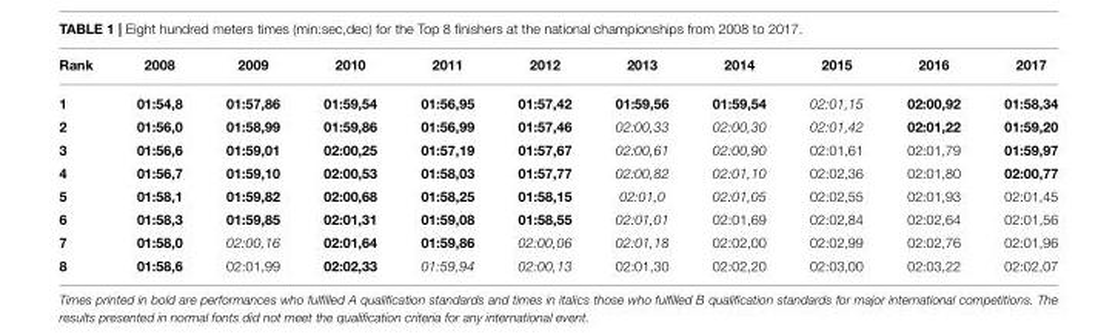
<table><thead><tr><td>Rank</td><td>2008</td><td>2009</td><td>2010</td><td>2011</td><td>2012</td><td>2013</td><td>2014</td><td>2015</td><td>2016</td><td>2017</td></tr></thead><tbody><tr><td>1</td><td>01:54,8</td><td>01:57,86</td><td>01:59,54</td><td>01:56,95</td><td>01:57,42</td><td>01:59,56</td><td>01:59,54</td><td>02:01,15</td><td>02:00,92</td><td>01:58,34</td></tr><tr><td>2</td><td>01:56,0</td><td>01:58,99</td><td>01:59,86</td><td>01:56,99</td><td>01:57,46</td><td>02:00,33</td><td>02:00,30</td><td>02:01,42</td><td>02:01,22</td><td>01:59,20</td></tr><tr><td>3</td><td>01:56,6</td><td>01:59,01</td><td>02:00,25</td><td>01:57,19</td><td>01:57,67</td><td>02:00,61</td><td>02:00,90</td><td>02:01,61</td><td>02:01,79</td><td>01:59,97</td></tr><tr><td>4</td><td>01:56,7</td><td>01:59,10</td><td>02:00,53</td><td>01:58,03</td><td>01:57,77</td><td>02:00,82</td><td>02:01,10</td><td>02:02,36</td><td>02:01,80</td><td>02:00,77</td></tr><tr><td>5</td><td>01:58,1</td><td>01:59,82</td><td>02:00,68</td><td>01:58,25</td><td>01:58,15</td><td>02:01,0</td><td>02:01,05</td><td>02:02,55</td><td>02:01,93</td><td>02:01,45</td></tr><tr><td>6</td><td>01:58,3</td><td>01:59,85</td><td>02:01,31</td><td>01:59,08</td><td>01:58,55</td><td>02:01,01</td><td>02:01,69</td><td>02:02,84</td><td>02:02,64</td><td>02:01,56</td></tr><tr><td>7</td><td>01:58,0</td><td>02:00,16</td><td>02:01,64</td><td>01:59,86</td><td>02:00,06</td><td>02:01,18</td><td>02:02,00</td><td>02:02,99</td><td>02:02,76</td><td>02:01,96</td></tr><tr><td>8</td><td>01:58,6</td><td>02:01,99</td><td>02:02,33</td><td>01:59,94</td><td>02:00,13</td><td>02:01,30</td><td>02:02,20</td><td>02:03,00</td><td>02:03,22</td><td>02:02,07</td></tr></tbody></table>